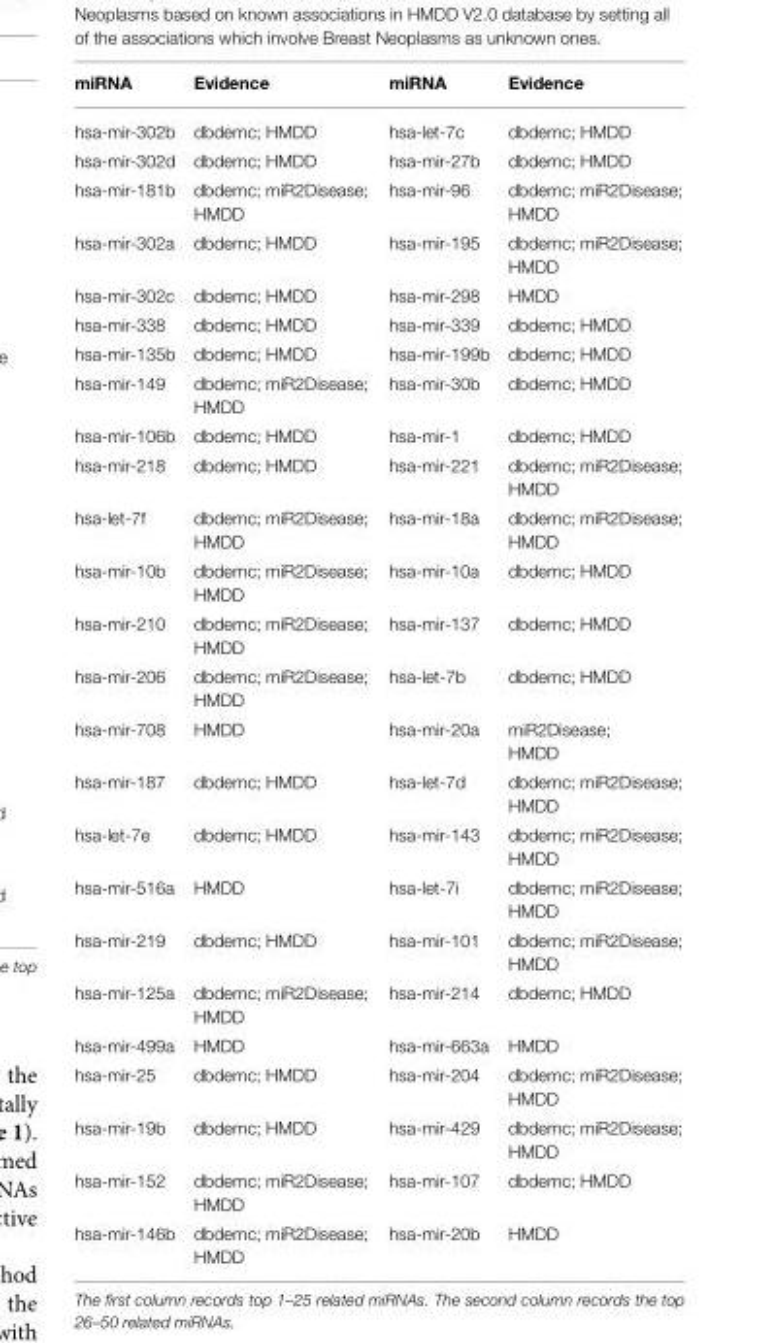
<table><thead><tr><td>miRNA</td><td>Evidence</td><td>miRNA</td><td>Evidence</td></tr></thead><tbody><tr><td>hsa-mir-302b</td><td>dbdemc; HMDD</td><td>hsa-let-7c</td><td>dbdemc; HMDD</td></tr><tr><td>hsa-mir-302d</td><td>dbdemc; HMDD</td><td>hsa-mir-27b</td><td>dbdemc; HMDD</td></tr><tr><td>hsa-mir-181b</td><td>dbdemc; miR2Disease; HMDD</td><td>hsa-mir-96</td><td>dbdemc; miR2Disease; HMDD</td></tr><tr><td>hsa-mir-302a</td><td>dbdemc; HMDD</td><td>hsa-mir-195</td><td>dbdemc; miR2Disease; HMDD</td></tr><tr><td>hsa-mir-302c</td><td>dbdemc; HMDD</td><td>hsa-mir-298</td><td>HMDD</td></tr><tr><td>hsa-mir-338</td><td>dbdemc; HMDD</td><td>hsa-mir-339</td><td>dbdemc; HMDD</td></tr><tr><td>hsa-mir-135b</td><td>dbdemc; HMDD</td><td>hsa-mir-199b</td><td>dbdemc; HMDD</td></tr><tr><td>hsa-mir-149</td><td>dbdemc; miR2Disease; HMDD</td><td>hsa-mir-30b</td><td>dbdemc; HMDD</td></tr><tr><td>hsa-mir-106b</td><td>dbdemc; HMDD</td><td>hsa-mir-1</td><td>dbdemc; HMDD</td></tr><tr><td>hsa-mir-218</td><td>dbdemc; HMDD</td><td>hsa-mir-221</td><td>dbdemc; miR2Disease; HMDD</td></tr><tr><td>hsa-let-7f</td><td>dbdemc; miR2Disease; HMDD</td><td>hsa-mir-18a</td><td>dbdemc; miR2Disease; HMDD</td></tr><tr><td>hsa-mir-10b</td><td>dbdemc; miR2Disease; HMDD</td><td>hsa-mir-10a</td><td>dbdemc; HMDD</td></tr><tr><td>hsa-mir-210</td><td>dbdemc; miR2Disease; HMDD</td><td>hsa-mir-137</td><td>dbdemc; HMDD</td></tr><tr><td>hsa-mir-206</td><td>dbdemc; miR2Disease; HMDD</td><td>hsa-let-7b</td><td>dbdemc; HMDD</td></tr><tr><td>hsa-mir-708</td><td>HMDD</td><td>hsa-mir-20a</td><td>miR2Disease; HMDD</td></tr><tr><td>hsa-mir-187</td><td>dbdemc; HMDD</td><td>hsa-let-7d</td><td>dbdemc; miR2Disease; HMDD</td></tr><tr><td>hsa-let-7e</td><td>dbdemc; HMDD</td><td>hsa-mir-143</td><td>dbdemc; miR2Disease; HMDD</td></tr><tr><td>hsa-mir-516a</td><td>HMDD</td><td>hsa-let-7i</td><td>dbdemc; miR2Disease; HMDD</td></tr><tr><td>hsa-mir-219</td><td>dbdemc; HMDD</td><td>hsa-mir-101</td><td>dbdemc; miR2Disease; HMDD</td></tr><tr><td>hsa-mir-125a</td><td>dbdemc; miR2Disease; HMDD</td><td>hsa-mir-214</td><td>dbdemc; HMDD</td></tr><tr><td>hsa-mir-499a</td><td>HMDD</td><td>hsa-mir-663a</td><td>HMDD</td></tr><tr><td>hsa-mir-25</td><td>dbdemc; HMDD</td><td>hsa-mir-204</td><td>dbdemc; miR2Disease; HMDD</td></tr><tr><td>hsa-mir-19b</td><td>dbdemc; HMDD</td><td>hsa-mir-429</td><td>dbdemc; miR2Disease; HMDD</td></tr><tr><td>hsa-mir-152</td><td>dbdemc; miR2Disease; HMDD</td><td>hsa-mir-107</td><td>dbdemc; HMDD</td></tr><tr><td>hsa-mir-146b</td><td>dbdemc; miR2Disease; HMDD</td><td>hsa-mir-20b</td><td>HMDD</td></tr></tbody></table>